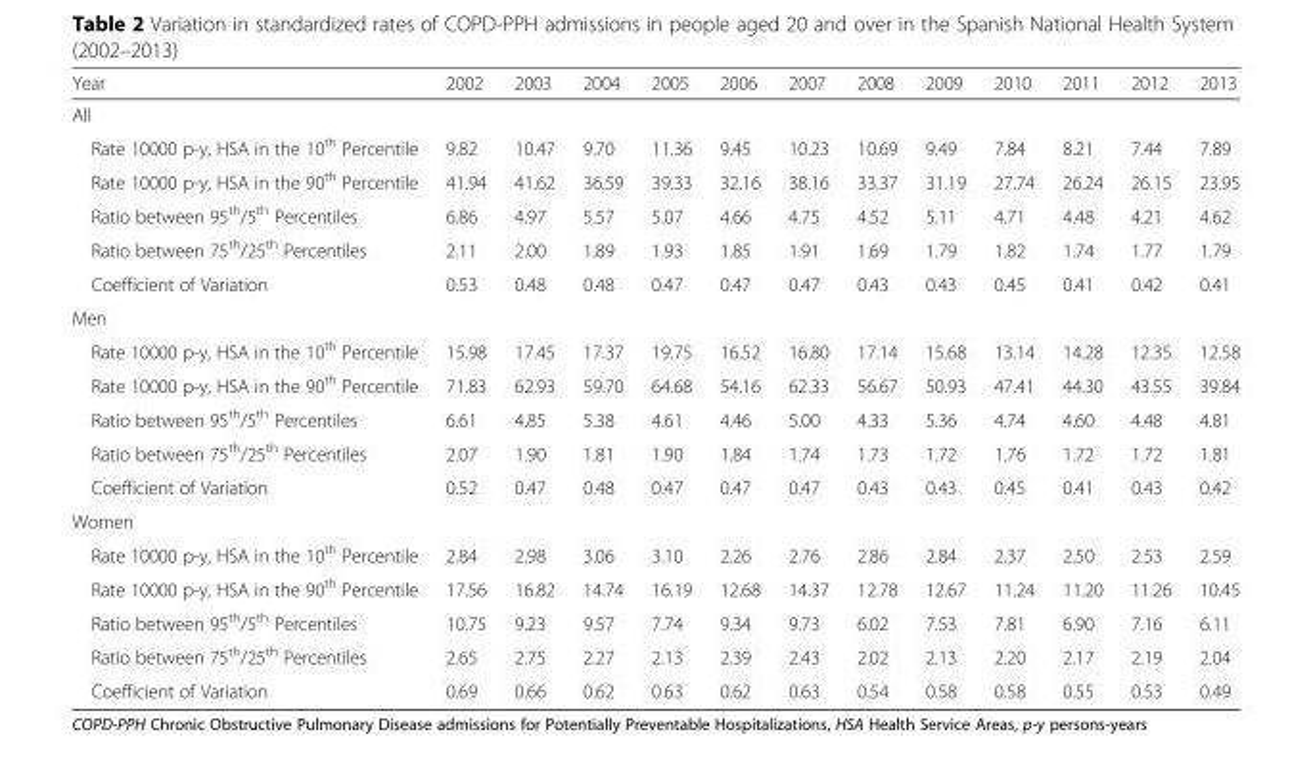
<table><thead><tr><td>Year</td><td>2002</td><td>2003</td><td>2004</td><td>2005</td><td>2006</td><td>2007</td><td>2008</td><td>2009</td><td>2010</td><td>2011</td><td>2012</td><td>2013</td></tr></thead><tbody><tr><td colspan="13">All</td></tr><tr><td>Rate 10000 p-y, HSA in the 10<sup>th</sup> Percentile</td><td>9.82</td><td>10.47</td><td>9.70</td><td>11.36</td><td>9.45</td><td>10.23</td><td>10.69</td><td>9.49</td><td>7.84</td><td>8.21</td><td>7.44</td><td>7.89</td></tr><tr><td>Rate 10000 p-y, HSA in the 90<sup>th</sup> Percentile</td><td>41.94</td><td>41.62</td><td>36.59</td><td>39.33</td><td>32.16</td><td>38.16</td><td>33.37</td><td>31.19</td><td>27.74</td><td>26.24</td><td>26.15</td><td>23.95</td></tr><tr><td>Ratio between 95<sup>th</sup>/5<sup>th</sup> Percentiles</td><td>6.86</td><td>4.97</td><td>5.57</td><td>5.07</td><td>4.66</td><td>4.75</td><td>4.52</td><td>5.11</td><td>4.71</td><td>4.48</td><td>4.21</td><td>4.62</td></tr><tr><td>Ratio between 75<sup>th</sup>/25<sup>th</sup> Percentiles</td><td>2.11</td><td>2.00</td><td>1.89</td><td>1.93</td><td>1.85</td><td>1.91</td><td>1.69</td><td>1.79</td><td>1.82</td><td>1.74</td><td>1.77</td><td>1.79</td></tr><tr><td>Coefficient of Variation</td><td>0.53</td><td>0.48</td><td>0.48</td><td>0.47</td><td>0.47</td><td>0.47</td><td>0.43</td><td>0.43</td><td>0.45</td><td>0.41</td><td>0.42</td><td>0.41</td></tr><tr><td colspan="13">Men</td></tr><tr><td>Rate 10000 p-y, HSA in the 10<sup>th</sup> Percentile</td><td>15.98</td><td>17.45</td><td>17.37</td><td>19.75</td><td>16.52</td><td>16.80</td><td>17.14</td><td>15.68</td><td>13.14</td><td>14.28</td><td>12.35</td><td>12.58</td></tr><tr><td>Rate 10000 p-y, HSA in the 90<sup>th</sup> Percentile</td><td>71.83</td><td>62.93</td><td>59.70</td><td>64.68</td><td>54.16</td><td>62.33</td><td>56.67</td><td>50.93</td><td>47.41</td><td>44.30</td><td>43.55</td><td>39.84</td></tr><tr><td>Ratio between 95<sup>th</sup>/5<sup>th</sup> Percentiles</td><td>6.61</td><td>4.85</td><td>5.38</td><td>4.61</td><td>4.46</td><td>5.00</td><td>4.33</td><td>5.36</td><td>4.74</td><td>4.60</td><td>4.48</td><td>4.81</td></tr><tr><td>Ratio between 75<sup>th</sup>/25<sup>th</sup> Percentiles</td><td>2.07</td><td>1.90</td><td>1.81</td><td>1.90</td><td>1.84</td><td>1.74</td><td>1.73</td><td>1.72</td><td>1.76</td><td>1.72</td><td>1.72</td><td>1.81</td></tr><tr><td>Coefficient of Variation</td><td>0.52</td><td>0.47</td><td>0.48</td><td>0.47</td><td>0.47</td><td>0.47</td><td>0.43</td><td>0.43</td><td>0.45</td><td>0.41</td><td>0.43</td><td>0.42</td></tr><tr><td colspan="13">Women</td></tr><tr><td>Rate 10000 p-y, HSA in the 10<sup>th</sup> Percentile</td><td>2.84</td><td>2.98</td><td>3.06</td><td>3.10</td><td>2.26</td><td>2.76</td><td>2.86</td><td>2.84</td><td>2.37</td><td>2.50</td><td>2.53</td><td>2.59</td></tr><tr><td>Rate 10000 p-y, HSA in the 90<sup>th</sup> Percentile</td><td>17.56</td><td>16.82</td><td>14.74</td><td>16.19</td><td>12.68</td><td>14.37</td><td>12.78</td><td>12.67</td><td>11.24</td><td>11.20</td><td>11.26</td><td>10.45</td></tr><tr><td>Ratio between 95<sup>th</sup>/5<sup>th</sup> Percentiles</td><td>10.75</td><td>9.23</td><td>9.57</td><td>7.74</td><td>9.34</td><td>9.73</td><td>6.02</td><td>7.53</td><td>7.81</td><td>6.90</td><td>7.16</td><td>6.11</td></tr><tr><td>Ratio between 75<sup>th</sup>/25<sup>th</sup> Percentiles</td><td>2.65</td><td>2.75</td><td>2.27</td><td>2.13</td><td>2.39</td><td>2.43</td><td>2.02</td><td>2.13</td><td>2.20</td><td>2.17</td><td>2.19</td><td>2.04</td></tr><tr><td>Coefficient of Variation</td><td>0.69</td><td>0.66</td><td>0.62</td><td>0.63</td><td>0.62</td><td>0.63</td><td>0.54</td><td>0.58</td><td>0.58</td><td>0.55</td><td>0.53</td><td>0.49</td></tr></tbody></table>